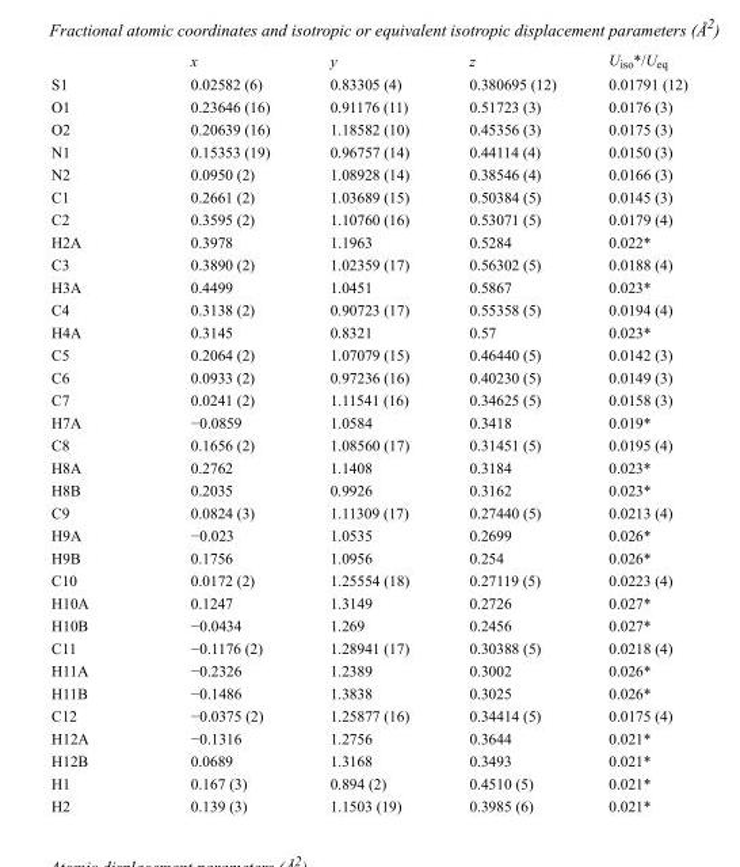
<table><thead><tr><td></td><td>x</td><td>y</td><td>z</td><td>U<sub>iso</sub>*/U<sub>eq</sub></td></tr></thead><tbody><tr><td>S1</td><td>0.02582 (6)</td><td>0.83305 (4)</td><td>0.380695 (12)</td><td>0.01791 (12)</td></tr><tr><td>O1</td><td>0.23646 (16)</td><td>0.91176 (11)</td><td>0.51723 (3)</td><td>0.0176 (3)</td></tr><tr><td>O2</td><td>0.20639 (16)</td><td>1.18582 (10)</td><td>0.45356 (3)</td><td>0.0175 (3)</td></tr><tr><td>N1</td><td>0.15353 (19)</td><td>0.96757 (14)</td><td>0.44114 (4)</td><td>0.0150 (3)</td></tr><tr><td>N2</td><td>0.0950 (2)</td><td>1.08928 (14)</td><td>0.38546 (4)</td><td>0.0166 (3)</td></tr><tr><td>C1</td><td>0.2661 (2)</td><td>1.03689 (15)</td><td>0.50384 (5)</td><td>0.0145 (3)</td></tr><tr><td>C2</td><td>0.3595 (2)</td><td>1.10760 (16)</td><td>0.53071 (5)</td><td>0.0179 (4)</td></tr><tr><td>H2A</td><td>0.3978</td><td>1.1963</td><td>0.5284</td><td>0.022*</td></tr><tr><td>C3</td><td>0.3890 (2)</td><td>1.02359 (17)</td><td>0.56302 (5)</td><td>0.0188 (4)</td></tr><tr><td>H3A</td><td>0.4499</td><td>1.0451</td><td>0.5867</td><td>0.023*</td></tr><tr><td>C4</td><td>0.3138 (2)</td><td>0.90723 (17)</td><td>0.55358 (5)</td><td>0.0194 (4)</td></tr><tr><td>H4A</td><td>0.3145</td><td>0.8321</td><td>0.57</td><td>0.023*</td></tr><tr><td>C5</td><td>0.2064 (2)</td><td>1.07079 (15)</td><td>0.46440 (5)</td><td>0.0142 (3)</td></tr><tr><td>C6</td><td>0.0933 (2)</td><td>0.97236 (16)</td><td>0.40230 (5)</td><td>0.0149 (3)</td></tr><tr><td>C7</td><td>0.0241 (2)</td><td>1.11541 (16)</td><td>0.34625 (5)</td><td>0.0158 (3)</td></tr><tr><td>H7A</td><td>−0.0859</td><td>1.0584</td><td>0.3418</td><td>0.019*</td></tr><tr><td>C8</td><td>0.1656 (2)</td><td>1.08560 (17)</td><td>0.31451 (5)</td><td>0.0195 (4)</td></tr><tr><td>H8A</td><td>0.2762</td><td>1.1408</td><td>0.3184</td><td>0.023*</td></tr><tr><td>H8B</td><td>0.2035</td><td>0.9926</td><td>0.3162</td><td>0.023*</td></tr><tr><td>C9</td><td>0.0824 (3)</td><td>1.11309 (17)</td><td>0.27440 (5)</td><td>0.0213 (4)</td></tr><tr><td>H9A</td><td>−0.023</td><td>1.0535</td><td>0.2699</td><td>0.026*</td></tr><tr><td>H9B</td><td>0.1756</td><td>1.0956</td><td>0.254</td><td>0.026*</td></tr><tr><td>C10</td><td>0.0172 (2)</td><td>1.25554 (18)</td><td>0.27119 (5)</td><td>0.0223 (4)</td></tr><tr><td>H10A</td><td>0.1247</td><td>1.3149</td><td>0.2726</td><td>0.027*</td></tr><tr><td>H10B</td><td>−0.0434</td><td>1.269</td><td>0.2456</td><td>0.027*</td></tr><tr><td>C11</td><td>−0.1176 (2)</td><td>1.28941 (17)</td><td>0.30388 (5)</td><td>0.0218 (4)</td></tr><tr><td>H11A</td><td>−0.2326</td><td>1.2389</td><td>0.3002</td><td>0.026*</td></tr><tr><td>H11B</td><td>−0.1486</td><td>1.3838</td><td>0.3025</td><td>0.026*</td></tr><tr><td>C12</td><td>−0.0375 (2)</td><td>1.25877 (16)</td><td>0.34414 (5)</td><td>0.0175 (4)</td></tr><tr><td>H12A</td><td>−0.1316</td><td>1.2756</td><td>0.3644</td><td>0.021*</td></tr><tr><td>H12B</td><td>0.0689</td><td>1.3168</td><td>0.3493</td><td>0.021*</td></tr><tr><td>H1</td><td>0.167 (3)</td><td>0.894 (2)</td><td>0.4510 (5)</td><td>0.021*</td></tr><tr><td>H2</td><td>0.139 (3)</td><td>1.1503 (19)</td><td>0.3985 (6)</td><td>0.021*</td></tr></tbody></table>